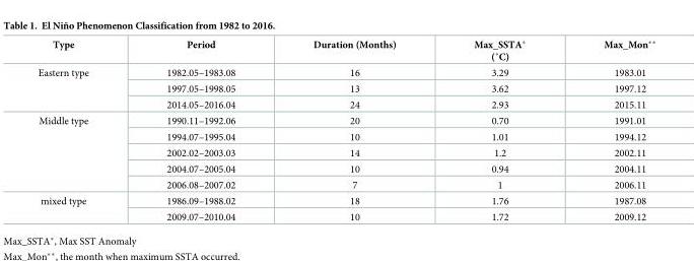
<table><thead><tr><td>Type</td><td>Period</td><td>Duration (Months)</td><td>Max_SSTA* (˚C)</td><td>Max_Mon**</td></tr></thead><tbody><tr><td rowspan="3">Eastern type</td><td>1982.05–1983.08</td><td>16</td><td>3.29</td><td>1983.01</td></tr><tr><td>1997.05–1998.05</td><td>13</td><td>3.62</td><td>1997.12</td></tr><tr><td>2014.05–2016.04</td><td>24</td><td>2.93</td><td>2015.11</td></tr><tr><td rowspan="5">Middle type</td><td>1990.11–1992.06</td><td>20</td><td>0.70</td><td>1991.01</td></tr><tr><td>1994.07–1995.04</td><td>10</td><td>1.01</td><td>1994.12</td></tr><tr><td>2002.02–2003.03</td><td>14</td><td>1.2</td><td>2002.11</td></tr><tr><td>2004.07–2005.04</td><td>10</td><td>0.94</td><td>2004.11</td></tr><tr><td>2006.08–2007.02</td><td>7</td><td>1</td><td>2006.11</td></tr><tr><td rowspan="2">mixed type</td><td>1986.09–1988.02</td><td>18</td><td>1.76</td><td>1987.08</td></tr><tr><td>2009.07–2010.04</td><td>10</td><td>1.72</td><td>2009.12</td></tr></tbody></table>